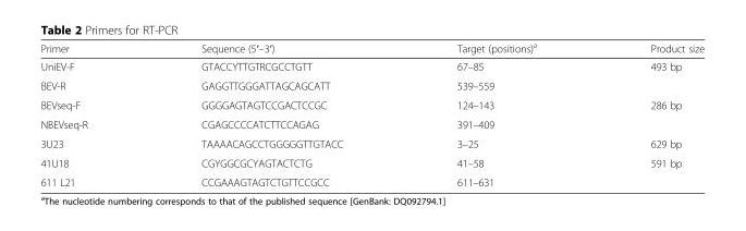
<table><thead><tr><td>Primer</td><td>Sequence (5′–3′)</td><td>Target (positions)<sup>a</sup></td><td>Product size</td></tr></thead><tbody><tr><td>UniEV-F</td><td>GTACCYTTGTRCGCCTGTT</td><td>67–85</td><td>493 bp</td></tr><tr><td>BEV-R</td><td>GAGGTTGGGATTAGCAGCATT</td><td>539–559</td><td></td></tr><tr><td>BEVseq-F</td><td>GGGGAGTAGTCCGACTCCGC</td><td>124–143</td><td>286 bp</td></tr><tr><td>NBEVseq-R</td><td>CGAGCCCCATCTTCCAGAG</td><td>391–409</td><td></td></tr><tr><td>3U23</td><td>TAAAACAGCCTGGGGGTTGTACC</td><td>3–25</td><td>629 bp</td></tr><tr><td>41U18</td><td>CGYGGCGCYAGTACTCTG</td><td>41–58</td><td>591 bp</td></tr><tr><td>611 L21</td><td>CCGAAAGTAGTCTGTTCCGCC</td><td>611–631</td><td></td></tr></tbody></table>